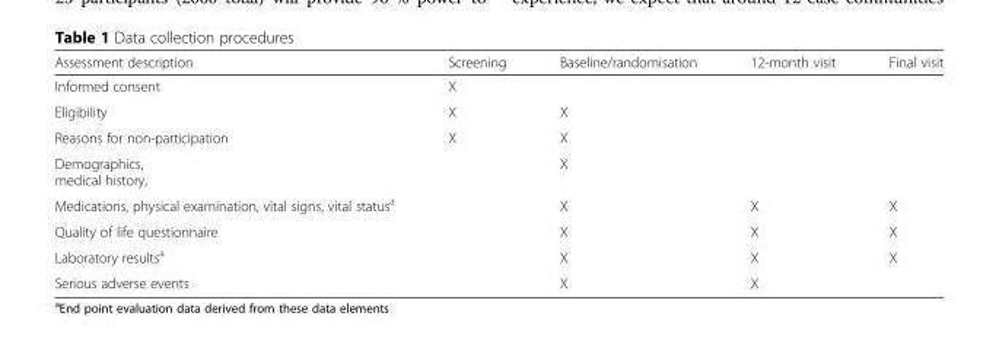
<table><thead><tr><td>Assessment description</td><td>Screening</td><td>Baseline/randomisation</td><td>12-month visit</td><td>Final visit</td></tr></thead><tbody><tr><td>Informed consent</td><td>X</td><td></td><td></td><td></td></tr><tr><td>Eligibility</td><td>X</td><td>X</td><td></td><td></td></tr><tr><td>Reasons for non-participation</td><td>X</td><td>X</td><td></td><td></td></tr><tr><td>Demographics, medical history,</td><td></td><td>X</td><td></td><td></td></tr><tr><td>Medications, physical examination, vital signs, vital status<sup>a</sup></td><td></td><td>X</td><td>X</td><td>X</td></tr><tr><td>Quality of life questionnaire</td><td></td><td>X</td><td>X</td><td>X</td></tr><tr><td>Laboratory results<sup>a</sup></td><td></td><td>X</td><td>X</td><td>X</td></tr><tr><td>Serious adverse events</td><td></td><td>X</td><td>X</td><td></td></tr></tbody></table>